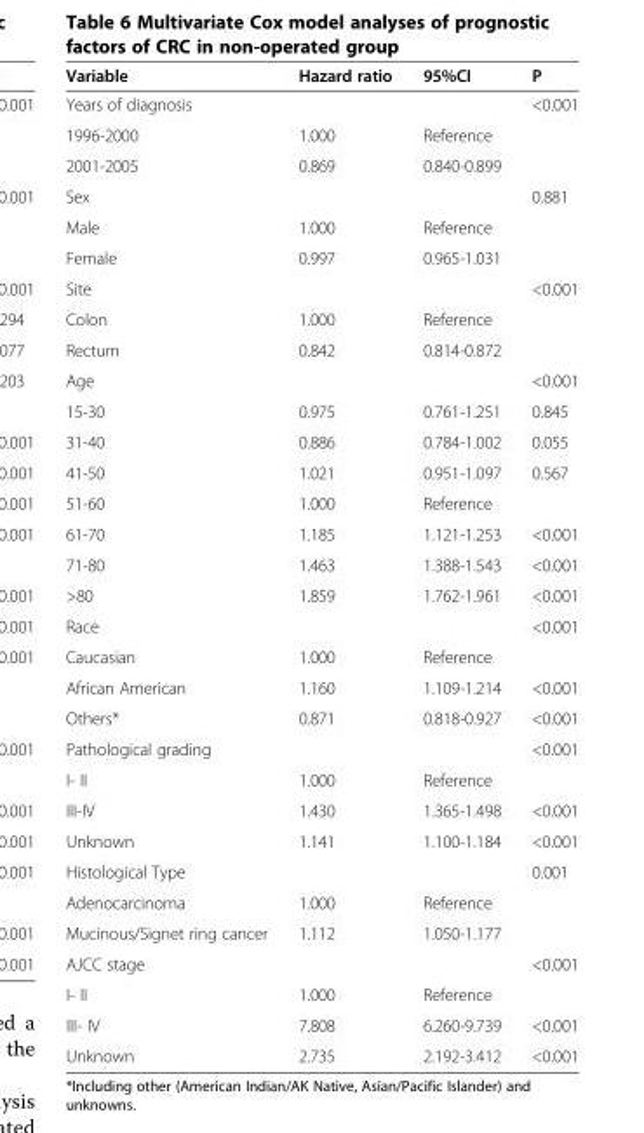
<table><thead><tr><td>Variable</td><td>Hazard ratio</td><td>95%CI</td><td>P</td></tr></thead><tbody><tr><td>Years of diagnosis</td><td></td><td></td><td>&lt;0.001</td></tr><tr><td>1996-2000</td><td>1.000</td><td>Reference</td><td></td></tr><tr><td>2001-2005</td><td>0.869</td><td>0.840-0.899</td><td></td></tr><tr><td>Sex</td><td></td><td></td><td>0.881</td></tr><tr><td>Male</td><td>1.000</td><td>Reference</td><td></td></tr><tr><td>Female</td><td>0.997</td><td>0.965-1.031</td><td></td></tr><tr><td>Site</td><td></td><td></td><td>&lt;0.001</td></tr><tr><td>Colon</td><td>1.000</td><td>Reference</td><td></td></tr><tr><td>Rectum</td><td>0.842</td><td>0.814-0.872</td><td></td></tr><tr><td>Age</td><td></td><td></td><td>&lt;0.001</td></tr><tr><td>15-30</td><td>0.975</td><td>0.761-1.251</td><td>0.845</td></tr><tr><td>31-40</td><td>0.886</td><td>0.784-1.002</td><td>0.055</td></tr><tr><td>41-50</td><td>1.021</td><td>0.951-1.097</td><td>0.567</td></tr><tr><td>51-60</td><td>1.000</td><td>Reference</td><td></td></tr><tr><td>61-70</td><td>1.185</td><td>1.121-1.253</td><td>&lt;0.001</td></tr><tr><td>71-80</td><td>1.463</td><td>1.388-1.543</td><td>&lt;0.001</td></tr><tr><td>&gt;80</td><td>1.859</td><td>1.762-1.961</td><td>&lt;0.001</td></tr><tr><td>Race</td><td></td><td></td><td>&lt;0.001</td></tr><tr><td>Caucasian</td><td>1.000</td><td>Reference</td><td></td></tr><tr><td>African American</td><td>1.160</td><td>1.109-1.214</td><td>&lt;0.001</td></tr><tr><td>Others*</td><td>0.871</td><td>0.818-0.927</td><td>&lt;0.001</td></tr><tr><td>Pathological grading</td><td></td><td></td><td>&lt;0.001</td></tr><tr><td>I- II</td><td>1.000</td><td>Reference</td><td></td></tr><tr><td>III-IV</td><td>1.430</td><td>1.365-1.498</td><td>&lt;0.001</td></tr><tr><td>Unknown</td><td>1.141</td><td>1.100-1.184</td><td>&lt;0.001</td></tr><tr><td>Histological Type</td><td></td><td></td><td>0.001</td></tr><tr><td>Adenocarcinoma</td><td>1.000</td><td>Reference</td><td></td></tr><tr><td>Mucinous/Signet ring cancer</td><td>1.112</td><td>1.050-1.177</td><td></td></tr><tr><td>AJCC stage</td><td></td><td></td><td>&lt;0.001</td></tr><tr><td>I- II</td><td>1.000</td><td>Reference</td><td></td></tr><tr><td>III- IV</td><td>7.808</td><td>6.260-9.739</td><td>&lt;0.001</td></tr><tr><td>Unknown</td><td>2.735</td><td>2.192-3.412</td><td>&lt;0.001</td></tr></tbody></table>